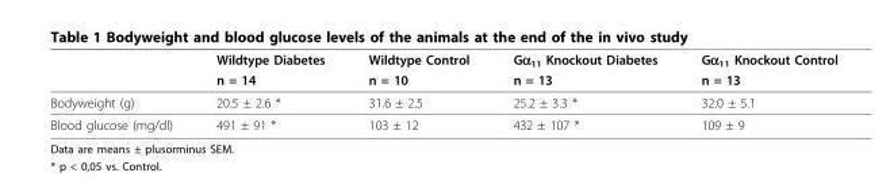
<table><thead><tr><td rowspan="2"></td><td rowspan="2">Wildtype Diabetes n = 14</td><td rowspan="2">Wildtype Control n = 10</td><td rowspan="2">Gα<sub>11</sub> Knockout Diabetes n = 13</td><td rowspan="2">Gα<sub>11</sub> Knockout Control n = 13</td></tr><tr></tr></thead><tbody><tr><td>Bodyweight (g)</td><td>20.5 ± 2.6 *</td><td>31.6 ± 2.5</td><td>25.2 ± 3.3 *</td><td>32.0 ± 5.1</td></tr><tr><td>Blood glucose (mg/dl)</td><td>491 ± 91 *</td><td>103 ± 12</td><td>432 ± 107 *</td><td>109 ± 9</td></tr></tbody></table>